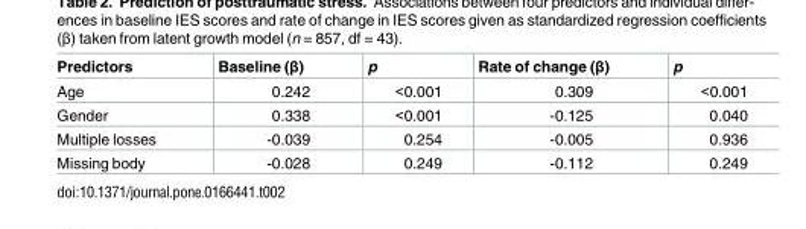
<table><thead><tr><td>Predictors</td><td>Baseline (β)</td><td>p</td><td>Rate of change (β)</td><td>p</td></tr></thead><tbody><tr><td>Age</td><td>0.242</td><td>&lt;0.001</td><td>0.309</td><td>&lt;0.001</td></tr><tr><td>Gender</td><td>0.338</td><td>&lt;0.001</td><td>-0.125</td><td>0.040</td></tr><tr><td>Multiple losses</td><td>-0.039</td><td>0.254</td><td>-0.005</td><td>0.936</td></tr><tr><td>Missing body</td><td>-0.028</td><td>0.249</td><td>-0.112</td><td>0.249</td></tr></tbody></table>